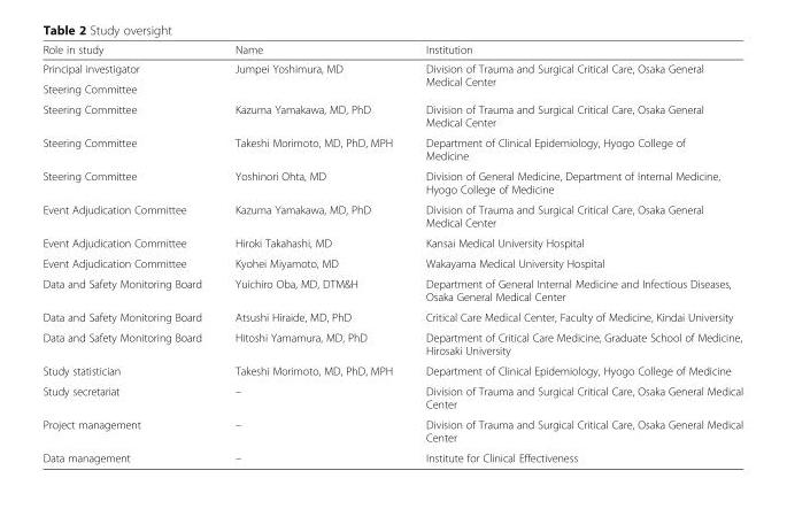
<table><thead><tr><td>Role in study</td><td>Name</td><td>Institution</td></tr></thead><tbody><tr><td>Principal investigator</td><td rowspan="2">Jumpei Yoshimura, MD</td><td rowspan="2">Division of Trauma and Surgical Critical Care, Osaka General Medical Center</td></tr><tr><td>Steering Committee</td></tr><tr><td>Steering Committee</td><td>Kazuma Yamakawa, MD, PhD</td><td>Division of Trauma and Surgical Critical Care, Osaka General Medical Center</td></tr><tr><td>Steering Committee</td><td>Takeshi Morimoto, MD, PhD, MPH</td><td>Department of Clinical Epidemiology, Hyogo College of Medicine</td></tr><tr><td>Steering Committee</td><td>Yoshinori Ohta, MD</td><td>Division of General Medicine, Department of Internal Medicine, Hyogo College of Medicine</td></tr><tr><td>Event Adjudication Committee</td><td>Kazuma Yamakawa, MD, PhD</td><td>Division of Trauma and Surgical Critical Care, Osaka General Medical Center</td></tr><tr><td>Event Adjudication Committee</td><td>Hiroki Takahashi, MD</td><td>Kansai Medical University Hospital</td></tr><tr><td>Event Adjudication Committee</td><td>Kyohei Miyamoto, MD</td><td>Wakayama Medical University Hospital</td></tr><tr><td>Data and Safety Monitoring Board</td><td>Yuichiro Oba, MD, DTM&amp;H</td><td>Department of General Internal Medicine and Infectious Diseases, Osaka General Medical Center</td></tr><tr><td>Data and Safety Monitoring Board</td><td>Atsushi Hiraide, MD, PhD</td><td>Critical Care Medical Center, Faculty of Medicine, Kindai University</td></tr><tr><td>Data and Safety Monitoring Board</td><td>Hitoshi Yamamura, MD, PhD</td><td>Department of Critical Care Medicine, Graduate School of Medicine, Hirosaki University</td></tr><tr><td>Study statistician</td><td>Takeshi Morimoto, MD, PhD, MPH</td><td>Department of Clinical Epidemiology, Hyogo College of Medicine</td></tr><tr><td>Study secretariat</td><td>–</td><td>Division of Trauma and Surgical Critical Care, Osaka General Medical Center</td></tr><tr><td>Project management</td><td>–</td><td>Division of Trauma and Surgical Critical Care, Osaka General Medical Center</td></tr><tr><td>Data management</td><td>–</td><td>Institute for Clinical Effectiveness</td></tr></tbody></table>